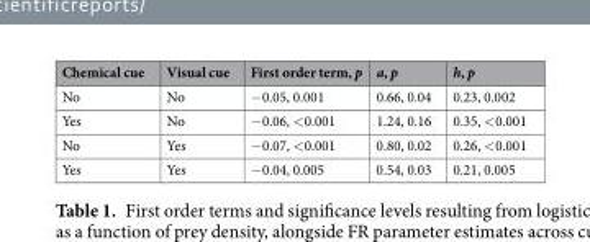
<table><thead><tr><td>Chemical cue</td><td>Visual cue</td><td>First order term, p</td><td>a, p</td><td>h, p</td></tr></thead><tbody><tr><td>No</td><td>No</td><td>−0.05, 0.001</td><td>0.66, 0.04</td><td>0.23, 0.002</td></tr><tr><td>Yes</td><td>No</td><td>−0.06, &lt;0.001</td><td>1.24, 0.16</td><td>0.35, &lt;0.001</td></tr><tr><td>No</td><td>Yes</td><td>−0.07, &lt;0.001</td><td>0.80, 0.02</td><td>0.26, &lt;0.001</td></tr><tr><td>Yes</td><td>Yes</td><td>−0.04, 0.005</td><td>0.54, 0.03</td><td>0.21, 0.005</td></tr></tbody></table>